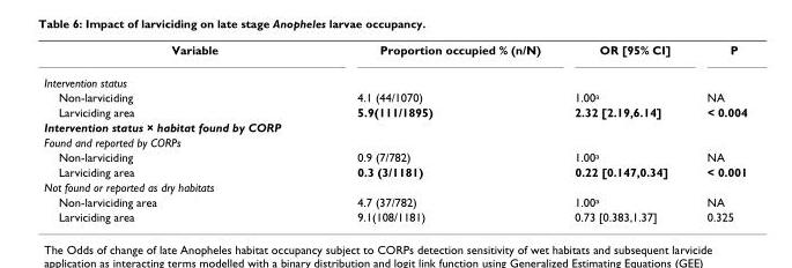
<table><tbody><tr><td>Variable</td><td>Proportion occupied % (n/N)</td><td>OR [95% CI]</td><td>P</td></tr><tr><td colspan="4">Intervention status</td></tr><tr><td>Non-larviciding</td><td>4.1 (44/1070)</td><td>1.00<sup>a</sup></td><td>NA</td></tr><tr><td>Larviciding area</td><td>5.9(111/1895)</td><td>2.32 [2.19,6.14]</td><td>&lt; 0.004</td></tr><tr><td colspan="4">Intervention status × habitat found by CORP</td></tr><tr><td colspan="4">Found and reported by CORPs</td></tr><tr><td>Non-larviciding</td><td>0.9 (7/782)</td><td>1.00<sup>a</sup></td><td>NA</td></tr><tr><td>Larviciding area</td><td>0.3 (3/1181)</td><td>0.22 [0.147,0.34]</td><td>&lt; 0.001</td></tr><tr><td colspan="4">Not found or reported as dry habitats</td></tr><tr><td>Non-larviciding area</td><td>4.7 (37/782)</td><td>1.00<sup>a</sup></td><td>NA</td></tr><tr><td>Larviciding area</td><td>9.1(108/1181)</td><td>0.73 [0.383,1.37]</td><td>0.325</td></tr></tbody></table>